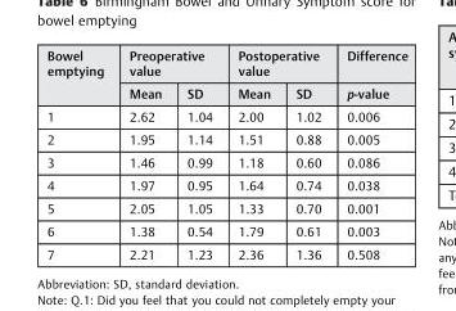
<table><thead><tr><td rowspan="2">Bowel emptying</td><td colspan="2">Preoperative value</td><td colspan="2">Postoperative value</td><td rowspan="2">Difference p-value</td></tr><tr><td>Mean</td><td>SD</td><td>Mean</td><td>SD</td></tr></thead><tbody><tr><td>1</td><td>2.62</td><td>1.04</td><td>2.00</td><td>1.02</td><td>0.006</td></tr><tr><td>2</td><td>1.95</td><td>1.14</td><td>1.51</td><td>0.88</td><td>0.005</td></tr><tr><td>3</td><td>1.46</td><td>0.99</td><td>1.18</td><td>0.60</td><td>0.086</td></tr><tr><td>4</td><td>1.97</td><td>0.95</td><td>1.64</td><td>0.74</td><td>0.038</td></tr><tr><td>5</td><td>2.05</td><td>1.05</td><td>1.33</td><td>0.70</td><td>0.001</td></tr><tr><td>6</td><td>1.38</td><td>0.54</td><td>1.79</td><td>0.61</td><td>0.003</td></tr><tr><td>7</td><td>2.21</td><td>1.23</td><td>2.36</td><td>1.36</td><td>0.508</td></tr></tbody></table>